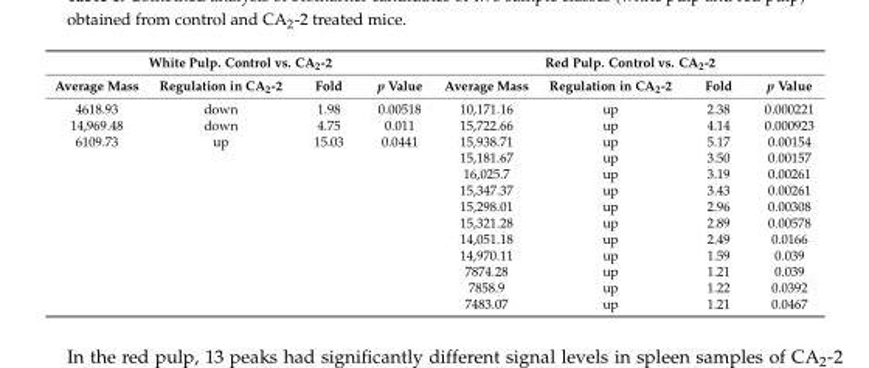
<table><thead><tr><td colspan="4">White Pulp. Control vs. CA<sub>2</sub>-2</td><td colspan="4">Red Pulp. Control vs. CA<sub>2</sub>-2</td></tr><tr><td>Average Mass</td><td>Regulation in CA<sub>2</sub>-2</td><td>Fold</td><td>p Value</td><td>Average Mass</td><td>Regulation in CA<sub>2</sub>-2</td><td>Fold</td><td>p Value</td></tr></thead><tbody><tr><td>4618.93</td><td>down</td><td>1.98</td><td>0.00518</td><td>10,171.16</td><td>up</td><td>2.38</td><td>0.000221</td></tr><tr><td>14,969.48</td><td>down</td><td>4.75</td><td>0.011</td><td>15,722.66</td><td>up</td><td>4.14</td><td>0.000923</td></tr><tr><td rowspan="11">6109.73</td><td>up</td><td>15.03</td><td>0.0441</td><td>15,938.71</td><td>up</td><td>5.17</td><td>0.00154</td></tr><tr><td></td><td></td><td></td><td>15,181.67</td><td>up</td><td>3.50</td><td>0.00157</td></tr><tr><td></td><td></td><td></td><td>16,025.7</td><td>up</td><td>3.19</td><td>0.00261</td></tr><tr><td></td><td></td><td></td><td>15,347.37</td><td>up</td><td>3.43</td><td>0.00261</td></tr><tr><td></td><td></td><td></td><td>15,298.01</td><td>up</td><td>2.96</td><td>0.00308</td></tr><tr><td></td><td></td><td></td><td>15,321.28</td><td>up</td><td>2.89</td><td>0.00578</td></tr><tr><td></td><td></td><td></td><td>14,051.18</td><td>up</td><td>2.49</td><td>0.0166</td></tr><tr><td></td><td></td><td></td><td>14,970.11</td><td>up</td><td>1.59</td><td>0.039</td></tr><tr><td></td><td></td><td></td><td>7874.28</td><td>up</td><td>1.21</td><td>0.039</td></tr><tr><td></td><td></td><td></td><td>7858.9</td><td>up</td><td>1.22</td><td>0.0392</td></tr><tr><td></td><td></td><td></td><td>7483.07</td><td>up</td><td>1.21</td><td>0.0467</td></tr></tbody></table>